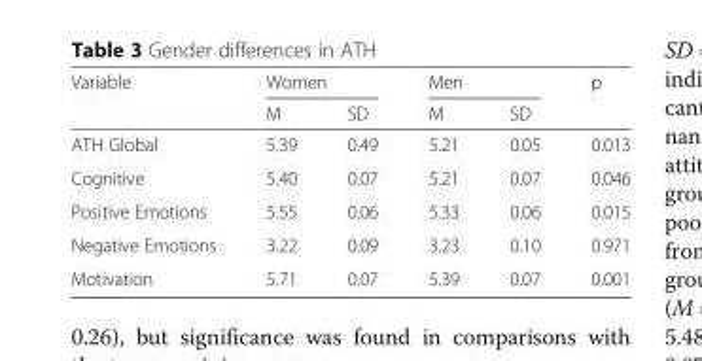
<table><thead><tr><td rowspan="2">Variable</td><td colspan="2">Women</td><td colspan="2">Men</td><td rowspan="2">p</td></tr><tr><td>M</td><td>SD</td><td>M</td><td>SD</td></tr></thead><tbody><tr><td>ATH Global</td><td>5.39</td><td>0.49</td><td>5.21</td><td>0.05</td><td>0.013</td></tr><tr><td>Cognitive</td><td>5.40</td><td>0.07</td><td>5.21</td><td>0.07</td><td>0.046</td></tr><tr><td>Positive Emotions</td><td>5.55</td><td>0.06</td><td>5.33</td><td>0.06</td><td>0.015</td></tr><tr><td>Negative Emotions</td><td>3.22</td><td>0.09</td><td>3.23</td><td>0.10</td><td>0.971</td></tr><tr><td>Motivation</td><td>5.71</td><td>0.07</td><td>5.39</td><td>0.07</td><td>0.001</td></tr></tbody></table>